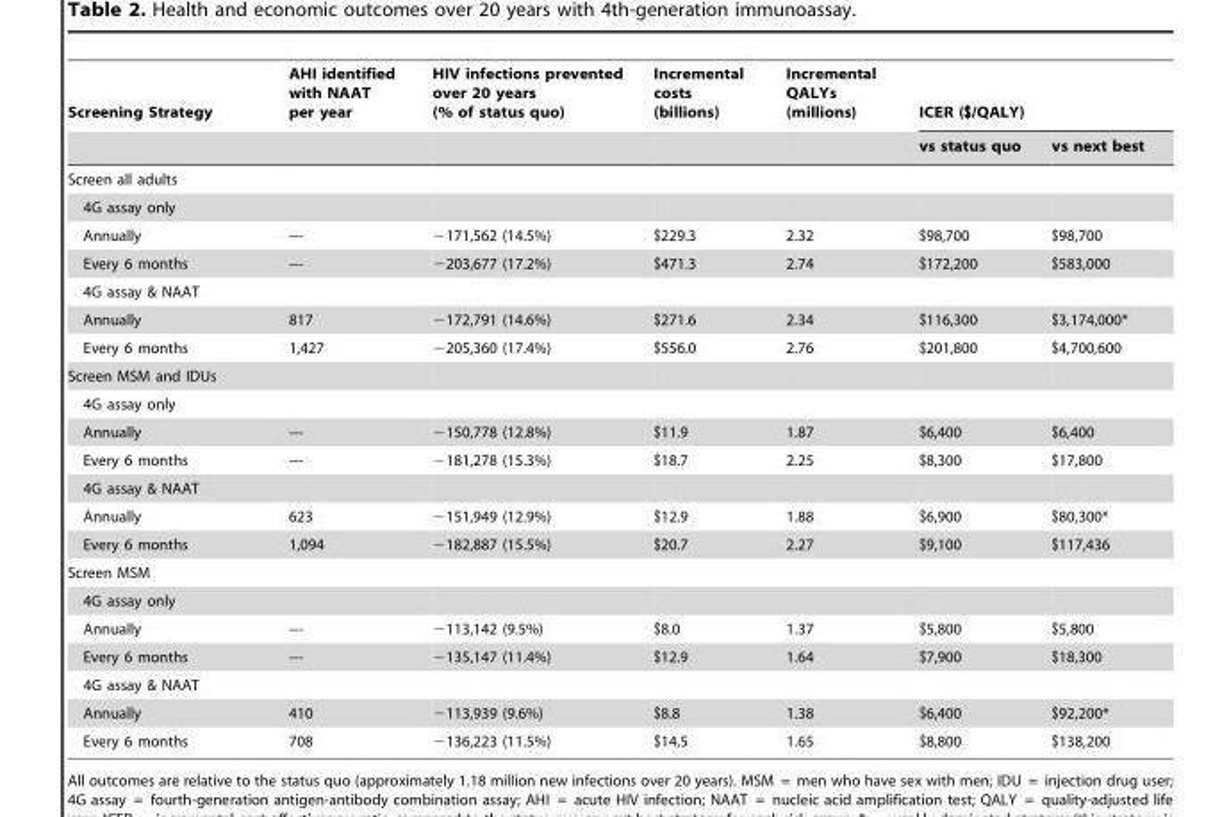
<table><thead><tr><td rowspan="2">Screening Strategy</td><td rowspan="2">AHI identified with NAAT per year</td><td rowspan="2">HIV infections prevented over 20 years (% of status quo)</td><td rowspan="2">Incremental costs (billions)</td><td rowspan="2">Incremental QALYs (millions)</td><td colspan="2">ICER ($/QALY)</td></tr><tr><td>vs status quo</td><td>vs next best</td></tr></thead><tbody><tr><td colspan="7">Screen all adults</td></tr><tr><td colspan="7">4G assay only</td></tr><tr><td>Annually</td><td>---</td><td>−171,562 (14.5%)</td><td>$229.3</td><td>2.32</td><td>$98,700</td><td>$98,700</td></tr><tr><td>Every 6 months</td><td>---</td><td>−203,677 (17.2%)</td><td>$471.3</td><td>2.74</td><td>$172,200</td><td>$583,000</td></tr><tr><td colspan="7">4G assay &amp; NAAT</td></tr><tr><td>Annually</td><td>817</td><td>−172,791 (14.6%)</td><td>$271.6</td><td>2.34</td><td>$116,300</td><td>$3,174,000*</td></tr><tr><td>Every 6 months</td><td>1,427</td><td>−205,360 (17.4%)</td><td>$556.0</td><td>2.76</td><td>$201,800</td><td>$4,700,600</td></tr><tr><td colspan="7">Screen MSM and IDUs</td></tr><tr><td colspan="7">4G assay only</td></tr><tr><td>Annually</td><td>---</td><td>−150,778 (12.8%)</td><td>$11.9</td><td>1.87</td><td>$6,400</td><td>$6,400</td></tr><tr><td>Every 6 months</td><td>---</td><td>−181,278 (15.3%)</td><td>$18.7</td><td>2.25</td><td>$8,300</td><td>$17,800</td></tr><tr><td colspan="7">4G assay &amp; NAAT</td></tr><tr><td>Annually</td><td>623</td><td>−151,949 (12.9%)</td><td>$12.9</td><td>1.88</td><td>$6,900</td><td>$80,300*</td></tr><tr><td>Every 6 months</td><td>1,094</td><td>−182,887 (15.5%)</td><td>$20.7</td><td>2.27</td><td>$9,100</td><td>$117,436</td></tr><tr><td colspan="7">Screen MSM</td></tr><tr><td colspan="7">4G assay only</td></tr><tr><td>Annually</td><td>---</td><td>−113,142 (9.5%)</td><td>$8.0</td><td>1.37</td><td>$5,800</td><td>$5,800</td></tr><tr><td>Every 6 months</td><td>---</td><td>−135,147 (11.4%)</td><td>$12.9</td><td>1.64</td><td>$7,900</td><td>$18,300</td></tr><tr><td colspan="7">4G assay &amp; NAAT</td></tr><tr><td>Annually</td><td>410</td><td>−113,939 (9.6%)</td><td>$8.8</td><td>1.38</td><td>$6,400</td><td>$92,200*</td></tr><tr><td>Every 6 months</td><td>708</td><td>−136,223 (11.5%)</td><td>$14.5</td><td>1.65</td><td>$8,800</td><td>$138,200</td></tr></tbody></table>